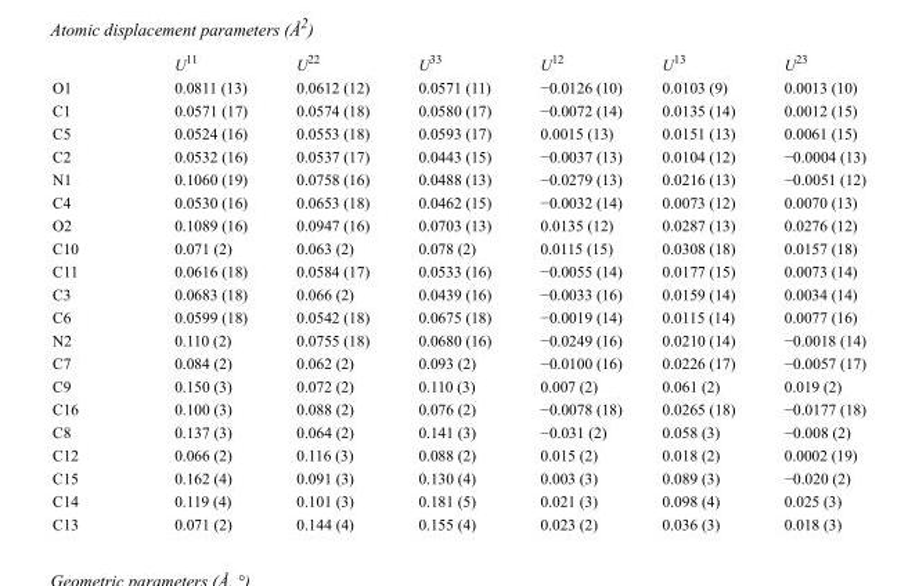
<table><thead><tr><td></td><td>U<sup>11</sup></td><td>U<sup>22</sup></td><td>U<sup>33</sup></td><td>U<sup>12</sup></td><td>U<sup>13</sup></td><td>U<sup>23</sup></td></tr></thead><tbody><tr><td>O1</td><td>0.0811 (13)</td><td>0.0612 (12)</td><td>0.0571 (11)</td><td>−0.0126 (10)</td><td>0.0103 (9)</td><td>0.0013 (10)</td></tr><tr><td>C1</td><td>0.0571 (17)</td><td>0.0574 (18)</td><td>0.0580 (17)</td><td>−0.0072 (14)</td><td>0.0135 (14)</td><td>0.0012 (15)</td></tr><tr><td>C5</td><td>0.0524 (16)</td><td>0.0553 (18)</td><td>0.0593 (17)</td><td>0.0015 (13)</td><td>0.0151 (13)</td><td>0.0061 (15)</td></tr><tr><td>C2</td><td>0.0532 (16)</td><td>0.0537 (17)</td><td>0.0443 (15)</td><td>−0.0037 (13)</td><td>0.0104 (12)</td><td>−0.0004 (13)</td></tr><tr><td>N1</td><td>0.1060 (19)</td><td>0.0758 (16)</td><td>0.0488 (13)</td><td>−0.0279 (13)</td><td>0.0216 (13)</td><td>−0.0051 (12)</td></tr><tr><td>C4</td><td>0.0530 (16)</td><td>0.0653 (18)</td><td>0.0462 (15)</td><td>−0.0032 (14)</td><td>0.0073 (12)</td><td>0.0070 (13)</td></tr><tr><td>O2</td><td>0.1089 (16)</td><td>0.0947 (16)</td><td>0.0703 (13)</td><td>0.0135 (12)</td><td>0.0287 (13)</td><td>0.0276 (12)</td></tr><tr><td>C10</td><td>0.071 (2)</td><td>0.063 (2)</td><td>0.078 (2)</td><td>0.0115 (15)</td><td>0.0308 (18)</td><td>0.0157 (18)</td></tr><tr><td>C11</td><td>0.0616 (18)</td><td>0.0584 (17)</td><td>0.0533 (16)</td><td>−0.0055 (14)</td><td>0.0177 (15)</td><td>0.0073 (14)</td></tr><tr><td>C3</td><td>0.0683 (18)</td><td>0.066 (2)</td><td>0.0439 (16)</td><td>−0.0033 (16)</td><td>0.0159 (14)</td><td>0.0034 (14)</td></tr><tr><td>C6</td><td>0.0599 (18)</td><td>0.0542 (18)</td><td>0.0675 (18)</td><td>−0.0019 (14)</td><td>0.0115 (14)</td><td>0.0077 (16)</td></tr><tr><td>N2</td><td>0.110 (2)</td><td>0.0755 (18)</td><td>0.0680 (16)</td><td>−0.0249 (16)</td><td>0.0210 (14)</td><td>−0.0018 (14)</td></tr><tr><td>C7</td><td>0.084 (2)</td><td>0.062 (2)</td><td>0.093 (2)</td><td>−0.0100 (16)</td><td>0.0226 (17)</td><td>−0.0057 (17)</td></tr><tr><td>C9</td><td>0.150 (3)</td><td>0.072 (2)</td><td>0.110 (3)</td><td>0.007 (2)</td><td>0.061 (2)</td><td>0.019 (2)</td></tr><tr><td>C16</td><td>0.100 (3)</td><td>0.088 (2)</td><td>0.076 (2)</td><td>−0.0078 (18)</td><td>0.0265 (18)</td><td>−0.0177 (18)</td></tr><tr><td>C8</td><td>0.137 (3)</td><td>0.064 (2)</td><td>0.141 (3)</td><td>−0.031 (2)</td><td>0.058 (3)</td><td>−0.008 (2)</td></tr><tr><td>C12</td><td>0.066 (2)</td><td>0.116 (3)</td><td>0.088 (2)</td><td>0.015 (2)</td><td>0.018 (2)</td><td>0.0002 (19)</td></tr><tr><td>C15</td><td>0.162 (4)</td><td>0.091 (3)</td><td>0.130 (4)</td><td>0.003 (3)</td><td>0.089 (3)</td><td>−0.020 (2)</td></tr><tr><td>C14</td><td>0.119 (4)</td><td>0.101 (3)</td><td>0.181 (5)</td><td>0.021 (3)</td><td>0.098 (4)</td><td>0.025 (3)</td></tr><tr><td>C13</td><td>0.071 (2)</td><td>0.144 (4)</td><td>0.155 (4)</td><td>0.023 (2)</td><td>0.036 (3)</td><td>0.018 (3)</td></tr></tbody></table>